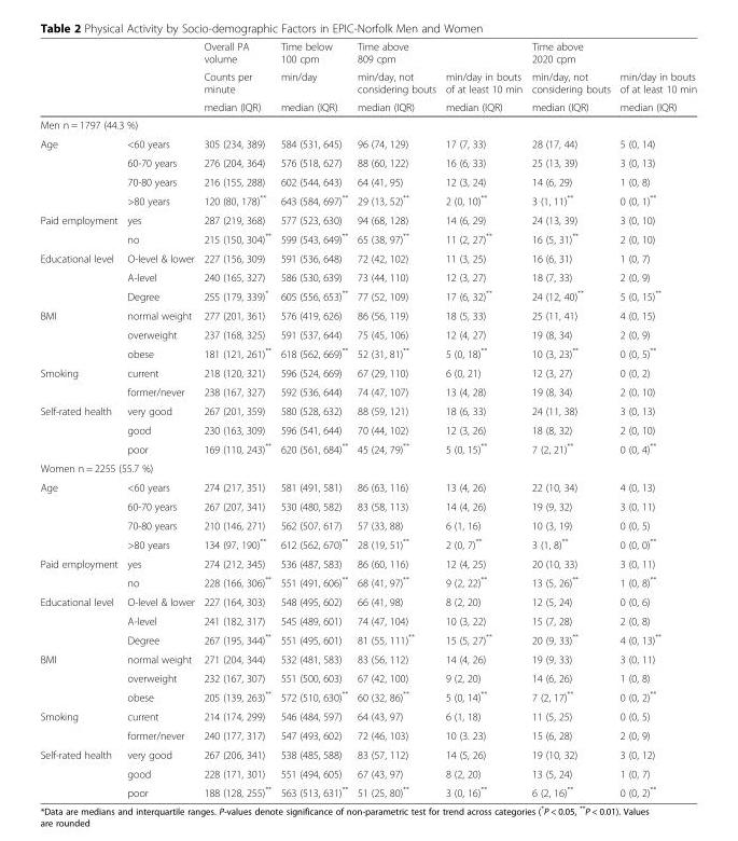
<table><thead><tr><td rowspan="3"></td><td rowspan="3"></td><td rowspan="3">Overall PA volume Counts per minute median (IQR)</td><td rowspan="3">Time below 100 cpm min/day median (IQR)</td><td rowspan="3">Time above 809 cpm min/day, not considering bouts median (IQR)</td><td rowspan="3">min/day in bouts of at least 10 min median (IQR)</td><td rowspan="3">Time above 2020 cpm min/day, not considering bouts median (IQR)</td><td rowspan="3">min/day in bouts of at least 10 min median (IQR)</td></tr><tr></tr><tr></tr></thead><tbody><tr><td colspan="8">Men n = 1797 (44.3 %)</td></tr><tr><td rowspan="4">Age</td><td>&lt;60 years</td><td>305 (234, 389)</td><td>584 (531, 645)</td><td>96 (74, 129)</td><td>17 (7, 33)</td><td>28 (17, 44)</td><td>5 (0, 14)</td></tr><tr><td>60-70 years</td><td>276 (204, 364)</td><td>576 (518, 627)</td><td>88 (60, 122)</td><td>16 (6, 33)</td><td>25 (13, 39)</td><td>3 (0, 13)</td></tr><tr><td>70-80 years</td><td>216 (155, 288)</td><td>602 (544, 643)</td><td>64 (41, 95)</td><td>12 (3, 24)</td><td>14 (6, 29)</td><td>1 (0, 8)</td></tr><tr><td>&gt;80 years</td><td>120 (80, 178)**</td><td>643 (584, 697)**</td><td>29 (13, 52)**</td><td>2 (0, 10)**</td><td>3 (1, 11)**</td><td>0 (0, 1)**</td></tr><tr><td rowspan="2">Paid employment</td><td>yes</td><td>287 (219, 368)</td><td>577 (523, 630)</td><td>94 (68, 128)</td><td>14 (6, 29)</td><td>24 (13, 39)</td><td>3 (0, 10)</td></tr><tr><td>no</td><td>215 (150, 304)**</td><td>599 (543, 649)**</td><td>65 (38, 97)**</td><td>11 (2, 27)**</td><td>16 (5, 31)**</td><td>2 (0, 10)</td></tr><tr><td rowspan="3">Educational level</td><td>O-level &amp; lower</td><td>227 (156, 309)</td><td>591 (536, 648)</td><td>72 (42, 102)</td><td>11 (3, 25)</td><td>16 (6, 31)</td><td>1 (0, 7)</td></tr><tr><td>A-level</td><td>240 (165, 327)</td><td>586 (530, 639)</td><td>73 (44, 110)</td><td>12 (3, 27)</td><td>18 (7, 33)</td><td>2 (0, 9)</td></tr><tr><td>Degree</td><td>255 (179, 339)*</td><td>605 (556, 653)**</td><td>77 (52, 109)</td><td>17 (6, 32)**</td><td>24 (12, 40)**</td><td>5 (0, 15)**</td></tr><tr><td rowspan="3">BMI</td><td>normal weight</td><td>277 (201, 361)</td><td>576 (419, 626)</td><td>86 (56, 119)</td><td>18 (5, 33)</td><td>25 (11, 41)</td><td>4 (0, 15)</td></tr><tr><td>overweight</td><td>237 (168, 325)</td><td>591 (537, 644)</td><td>75 (45, 106)</td><td>12 (4, 27)</td><td>19 (8, 34)</td><td>2 (0, 9)</td></tr><tr><td>obese</td><td>181 (121, 261)**</td><td>618 (562, 669)**</td><td>52 (31, 81)**</td><td>5 (0, 18)**</td><td>10 (3, 23)**</td><td>0 (0, 5)**</td></tr><tr><td rowspan="2">Smoking</td><td>current</td><td>218 (120, 321)</td><td>596 (524, 669)</td><td>67 (29, 110)</td><td>6 (0, 21)</td><td>12 (3, 27)</td><td>0 (0, 2)</td></tr><tr><td>former/never</td><td>238 (167, 327)</td><td>592 (536, 644)</td><td>74 (47, 107)</td><td>13 (4, 28)</td><td>19 (8, 34)</td><td>2 (0, 10)</td></tr><tr><td rowspan="3">Self-rated health</td><td>very good</td><td>267 (201, 359)</td><td>580 (528, 632)</td><td>88 (59, 121)</td><td>18 (6, 33)</td><td>24 (11, 38)</td><td>3 (0, 13)</td></tr><tr><td>good</td><td>230 (163, 309)</td><td>596 (541, 644)</td><td>70 (44, 102)</td><td>12 (3, 26)</td><td>18 (8, 32)</td><td>2 (0, 10)</td></tr><tr><td>poor</td><td>169 (110, 243)**</td><td>620 (561, 684)**</td><td>45 (24, 79)**</td><td>5 (0, 15)**</td><td>7 (2, 21)**</td><td>0 (0, 4)**</td></tr><tr><td colspan="8">Women n = 2255 (55.7 %)</td></tr><tr><td rowspan="4">Age</td><td>&lt;60 years</td><td>274 (217, 351)</td><td>581 (491, 581)</td><td>86 (63, 116)</td><td>13 (4, 26)</td><td>22 (10, 34)</td><td>4 (0, 13)</td></tr><tr><td>60-70 years</td><td>267 (207, 341)</td><td>530 (480, 582)</td><td>83 (58, 113)</td><td>14 (4, 26)</td><td>19 (9, 32)</td><td>3 (0, 11)</td></tr><tr><td>70-80 years</td><td>210 (146, 271)</td><td>562 (507, 617)</td><td>57 (33, 88)</td><td>6 (1, 16)</td><td>10 (3, 19)</td><td>0 (0, 5)</td></tr><tr><td>&gt;80 years</td><td>134 (97, 190)**</td><td>612 (562, 670)**</td><td>28 (19, 51)**</td><td>2 (0, 7)**</td><td>3 (1, 8)**</td><td>0 (0, 0)**</td></tr><tr><td rowspan="2">Paid employment</td><td>yes</td><td>274 (212, 345)</td><td>536 (487, 583)</td><td>86 (60, 116)</td><td>12 (4, 25)</td><td>20 (10, 33)</td><td>3 (0, 11)</td></tr><tr><td>no</td><td>228 (166, 306)**</td><td>551 (491, 606)**</td><td>68 (41, 97)**</td><td>9 (2, 22)**</td><td>13 (5, 26)**</td><td>1 (0, 8)**</td></tr><tr><td rowspan="3">Educational level</td><td>O-level &amp; lower</td><td>227 (164, 303)</td><td>548 (495, 602)</td><td>66 (41, 98)</td><td>8 (2, 20)</td><td>12 (5, 24)</td><td>0 (0, 6)</td></tr><tr><td>A-level</td><td>241 (182, 317)</td><td>545 (489, 601)</td><td>74 (47, 104)</td><td>10 (3, 22)</td><td>15 (7, 28)</td><td>2 (0, 8)</td></tr><tr><td>Degree</td><td>267 (195, 344)**</td><td>551 (495, 601)</td><td>81 (55, 111)**</td><td>15 (5, 27)**</td><td>20 (9, 33)**</td><td>4 (0, 13)**</td></tr><tr><td rowspan="3">BMI</td><td>normal weight</td><td>271 (204, 344)</td><td>532 (481, 583)</td><td>83 (56, 112)</td><td>14 (4, 26)</td><td>19 (9, 33)</td><td>3 (0, 11)</td></tr><tr><td>overweight</td><td>232 (167, 307)</td><td>551 (500, 603)</td><td>67 (42, 100)</td><td>9 (2, 20)</td><td>14 (6, 26)</td><td>1 (0, 8)</td></tr><tr><td>obese</td><td>205 (139, 263)**</td><td>572 (510, 630)**</td><td>60 (32, 86)**</td><td>5 (0, 14)**</td><td>7 (2, 17)**</td><td>0 (0, 2)**</td></tr><tr><td rowspan="2">Smoking</td><td>current</td><td>214 (174, 299)</td><td>546 (484, 597)</td><td>64 (43, 97)</td><td>6 (1, 18)</td><td>11 (5, 25)</td><td>0 (0, 5)</td></tr><tr><td>former/never</td><td>240 (177, 317)</td><td>547 (493, 602)</td><td>72 (46, 103)</td><td>10 (3. 23)</td><td>15 (6, 28)</td><td>2 (0, 9)</td></tr><tr><td rowspan="3">Self-rated health</td><td>very good</td><td>267 (206, 341)</td><td>538 (485, 588)</td><td>83 (57, 112)</td><td>14 (5, 26)</td><td>19 (10, 32)</td><td>3 (0, 12)</td></tr><tr><td>good</td><td>228 (171, 301)</td><td>551 (494, 605)</td><td>67 (43, 97)</td><td>8 (2, 20)</td><td>13 (5, 24)</td><td>1 (0, 7)</td></tr><tr><td>poor</td><td>188 (128, 255)**</td><td>563 (513, 631)**</td><td>51 (25, 80)**</td><td>3 (0, 16)**</td><td>6 (2, 16)**</td><td>0 (0, 2)**</td></tr></tbody></table>